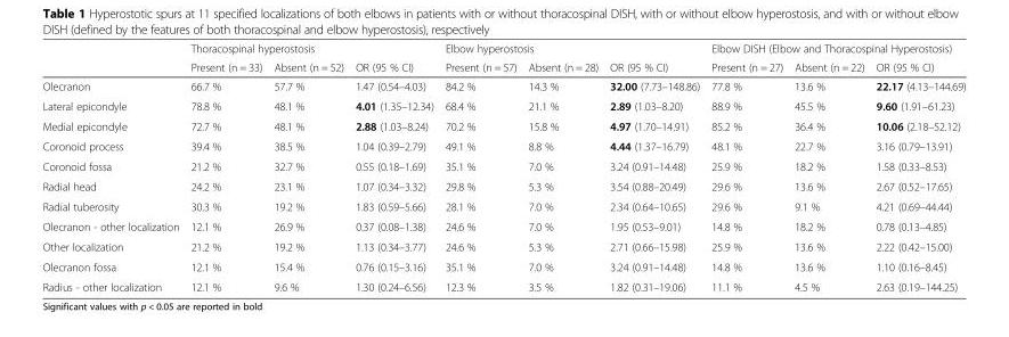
<table><thead><tr><td rowspan="2"></td><td colspan="3">Thoracospinal hyperostosis</td><td colspan="3">Elbow hyperostosis</td><td colspan="3">Elbow DISH (Elbow and Thoracospinal Hyperostosis)</td></tr><tr><td>Present (n = 33)</td><td>Absent (n = 52)</td><td>OR (95 % CI)</td><td>Present (n = 57)</td><td>Absent (n = 28)</td><td>OR (95 % CI)</td><td>Present (n = 27)</td><td>Absent (n = 22)</td><td>OR (95 % CI)</td></tr></thead><tbody><tr><td>Olecranon</td><td>66.7 %</td><td>57.7 %</td><td>1.47 (0.54–4.03)</td><td>84.2 %</td><td>14.3 %</td><td>32.00 (7.73–148.86)</td><td>77.8 %</td><td>13.6 %</td><td>22.17 (4.13–144.69)</td></tr><tr><td>Lateral epicondyle</td><td>78.8 %</td><td>48.1 %</td><td>4.01 (1.35–12.34)</td><td>68.4 %</td><td>21.1 %</td><td>2.89 (1.03–8.20)</td><td>88.9 %</td><td>45.5 %</td><td>9.60 (1.91–61.23)</td></tr><tr><td>Medial epicondyle</td><td>72.7 %</td><td>48.1 %</td><td>2.88 (1.03–8.24)</td><td>70.2 %</td><td>15.8 %</td><td>4.97 (1.70–14.91)</td><td>85.2 %</td><td>36.4 %</td><td>10.06 (2.18–52.12)</td></tr><tr><td>Coronoid process</td><td>39.4 %</td><td>38.5 %</td><td>1.04 (0.39–2.79)</td><td>49.1 %</td><td>8.8 %</td><td>4.44 (1.37–16.79)</td><td>48.1 %</td><td>22.7 %</td><td>3.16 (0.79–13.91)</td></tr><tr><td>Coronoid fossa</td><td>21.2 %</td><td>32.7 %</td><td>0.55 (0.18–1.69)</td><td>35.1 %</td><td>7.0 %</td><td>3.24 (0.91–14.48)</td><td>25.9 %</td><td>18.2 %</td><td>1.58 (0.33–8.53)</td></tr><tr><td>Radial head</td><td>24.2 %</td><td>23.1 %</td><td>1.07 (0.34–3.32)</td><td>29.8 %</td><td>5.3 %</td><td>3.54 (0.88–20.49)</td><td>29.6 %</td><td>13.6 %</td><td>2.67 (0.52–17.65)</td></tr><tr><td>Radial tuberosity</td><td>30.3 %</td><td>19.2 %</td><td>1.83 (0.59–5.66)</td><td>28.1 %</td><td>7.0 %</td><td>2.34 (0.64–10.65)</td><td>29.6 %</td><td>9.1 %</td><td>4.21 (0.69–44.44)</td></tr><tr><td>Olecranon - other localization</td><td>12.1 %</td><td>26.9 %</td><td>0.37 (0.08–1.38)</td><td>24.6 %</td><td>7.0 %</td><td>1.95 (0.53–9.01)</td><td>14.8 %</td><td>18.2 %</td><td>0.78 (0.13–4.85)</td></tr><tr><td>Other localization</td><td>21.2 %</td><td>19.2 %</td><td>1.13 (0.34–3.77)</td><td>24.6 %</td><td>5.3 %</td><td>2.71 (0.66–15.98)</td><td>25.9 %</td><td>13.6 %</td><td>2.22 (0.42–15.00)</td></tr><tr><td>Olecranon fossa</td><td>12.1 %</td><td>15.4 %</td><td>0.76 (0.15–3.16)</td><td>35.1 %</td><td>7.0 %</td><td>3.24 (0.91–14.48)</td><td>14.8 %</td><td>13.6 %</td><td>1.10 (0.16–8.45)</td></tr><tr><td>Radius - other localization</td><td>12.1 %</td><td>9.6 %</td><td>1.30 (0.24–6.56)</td><td>12.3 %</td><td>3.5 %</td><td>1.82 (0.31–19.06)</td><td>11.1 %</td><td>4.5 %</td><td>2.63 (0.19–144.25)</td></tr></tbody></table>